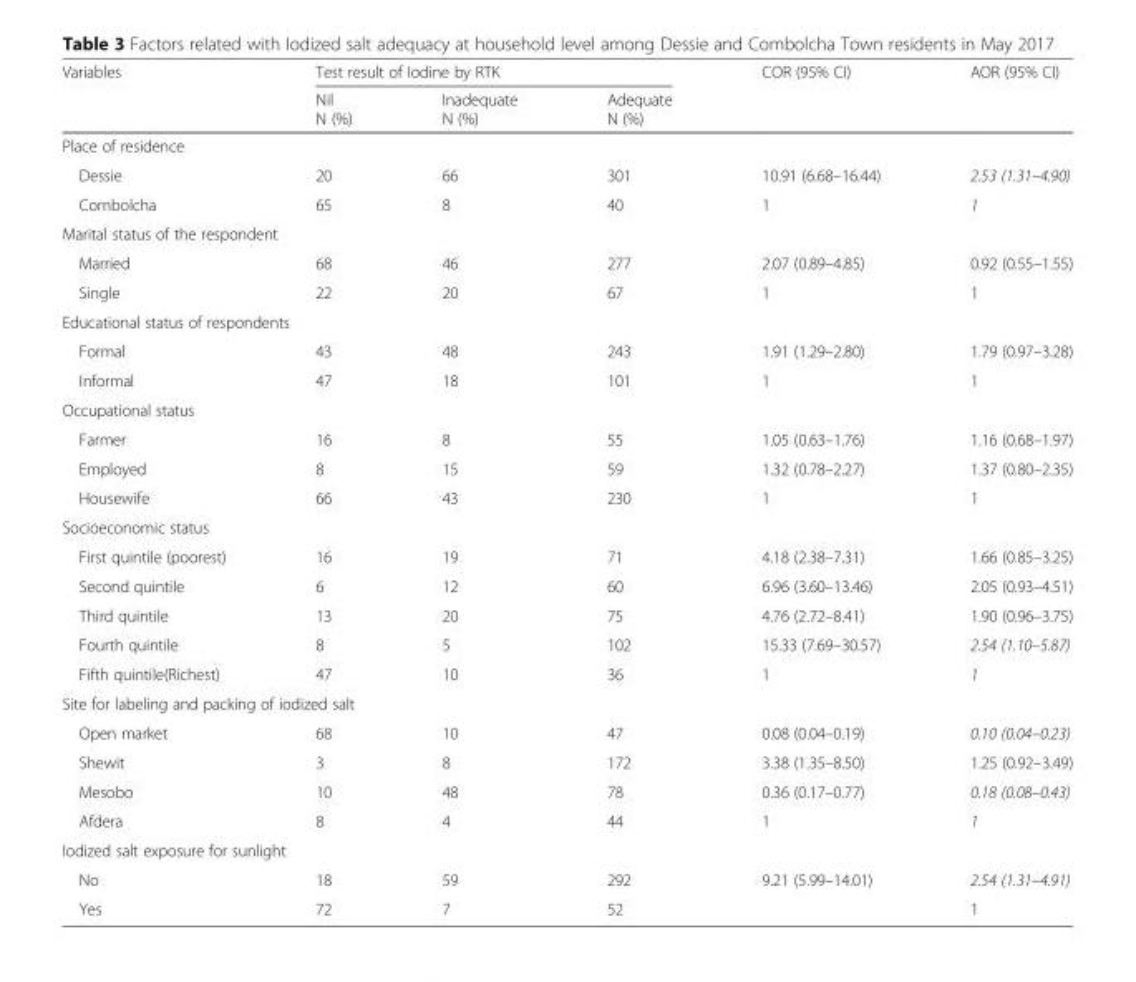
<table><thead><tr><td rowspan="2">Variables</td><td colspan="3">Test result of Iodine by RTK</td><td rowspan="2">COR (95% CI)</td><td rowspan="2">AOR (95% CI)</td></tr><tr><td>Nil N (%)</td><td>Inadequate N (%)</td><td>Adequate N (%)</td></tr></thead><tbody><tr><td colspan="6">Place of residence</td></tr><tr><td>Dessie</td><td>20</td><td>66</td><td>301</td><td>10.91 (6.68–16.44)</td><td>2.53 (1.31–4.90)</td></tr><tr><td>Combolcha</td><td>65</td><td>8</td><td>40</td><td>1</td><td>1</td></tr><tr><td colspan="6">Marital status of the respondent</td></tr><tr><td>Married</td><td>68</td><td>46</td><td>277</td><td>2.07 (0.89–4.85)</td><td>0.92 (0.55–1.55)</td></tr><tr><td>Single</td><td>22</td><td>20</td><td>67</td><td>1</td><td>1</td></tr><tr><td colspan="6">Educational status of respondents</td></tr><tr><td>Formal</td><td>43</td><td>48</td><td>243</td><td>1.91 (1.29–2.80)</td><td>1.79 (0.97–3.28)</td></tr><tr><td>Informal</td><td>47</td><td>18</td><td>101</td><td>1</td><td>1</td></tr><tr><td colspan="6">Occupational status</td></tr><tr><td>Farmer</td><td>16</td><td>8</td><td>55</td><td>1.05 (0.63–1.76)</td><td>1.16 (0.68–1.97)</td></tr><tr><td>Employed</td><td>8</td><td>15</td><td>59</td><td>1.32 (0.78–2.27)</td><td>1.37 (0.80–2.35)</td></tr><tr><td>Housewife</td><td>66</td><td>43</td><td>230</td><td>1</td><td>1</td></tr><tr><td colspan="6">Socioeconomic status</td></tr><tr><td>First quintile (poorest)</td><td>16</td><td>19</td><td>71</td><td>4.18 (2.38–7.31)</td><td>1.66 (0.85–3.25)</td></tr><tr><td>Second quintile</td><td>6</td><td>12</td><td>60</td><td>6.96 (3.60–13.46)</td><td>2.05 (0.93–4.51)</td></tr><tr><td>Third quintile</td><td>13</td><td>20</td><td>75</td><td>4.76 (2.72–8.41)</td><td>1.90 (0.96–3.75)</td></tr><tr><td>Fourth quintile</td><td>8</td><td>5</td><td>102</td><td>15.33 (7.69–30.57)</td><td>2.54 (1.10–5.87)</td></tr><tr><td>Fifth quintile(Richest)</td><td>47</td><td>10</td><td>36</td><td>1</td><td>1</td></tr><tr><td colspan="6">Site for labeling and packing of iodized salt</td></tr><tr><td>Open market</td><td>68</td><td>10</td><td>47</td><td>0.08 (0.04–0.19)</td><td>0.10 (0.04–0.23)</td></tr><tr><td>Shewit</td><td>3</td><td>8</td><td>172</td><td>3.38 (1.35–8.50)</td><td>1.25 (0.92–3.49)</td></tr><tr><td>Mesobo</td><td>10</td><td>48</td><td>78</td><td>0.36 (0.17–0.77)</td><td>0.18 (0.08–0.43)</td></tr><tr><td>Afdera</td><td>8</td><td>4</td><td>44</td><td>1</td><td>1</td></tr><tr><td colspan="6">Iodized salt exposure for sunlight</td></tr><tr><td>No</td><td>18</td><td>59</td><td>292</td><td>9.21 (5.99–14.01)</td><td>2.54 (1.31–4.91)</td></tr><tr><td>Yes</td><td>72</td><td>7</td><td>52</td><td></td><td>1</td></tr></tbody></table>